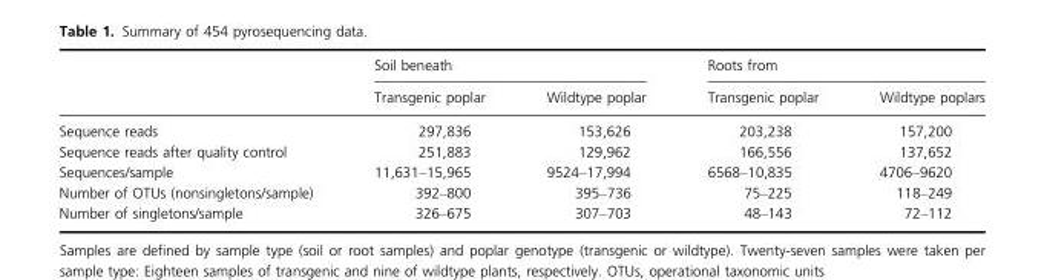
<table><thead><tr><td rowspan="2"></td><td colspan="2">Soil beneath</td><td colspan="2">Roots from</td></tr><tr><td>Transgenic poplar</td><td>Wildtype poplar</td><td>Transgenic poplar</td><td>Wildtype poplars</td></tr></thead><tbody><tr><td>Sequence reads</td><td>297,836</td><td>153,626</td><td>203,238</td><td>157,200</td></tr><tr><td>Sequence reads after quality control</td><td>251,883</td><td>129,962</td><td>166,556</td><td>137,652</td></tr><tr><td>Sequences/sample</td><td>11,631–15,965</td><td>9524–17,994</td><td>6568–10,835</td><td>4706–9620</td></tr><tr><td>Number of OTUs (nonsingletons/sample)</td><td>392–800</td><td>395–736</td><td>75–225</td><td>118–249</td></tr><tr><td>Number of singletons/sample</td><td>326–675</td><td>307–703</td><td>48–143</td><td>72–112</td></tr></tbody></table>